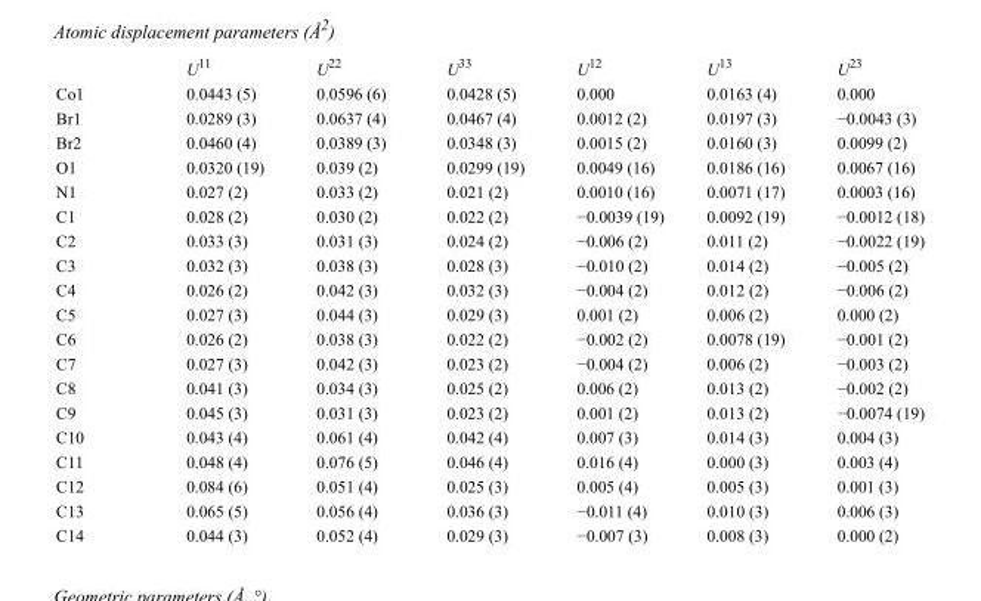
<table><thead><tr><td></td><td>U<sup>11</sup></td><td>U<sup>22</sup></td><td>U<sup>33</sup></td><td>U<sup>12</sup></td><td>U<sup>13</sup></td><td>U<sup>23</sup></td></tr></thead><tbody><tr><td>Co1</td><td>0.0443 (5)</td><td>0.0596 (6)</td><td>0.0428 (5)</td><td>0.000</td><td>0.0163 (4)</td><td>0.000</td></tr><tr><td>Br1</td><td>0.0289 (3)</td><td>0.0637 (4)</td><td>0.0467 (4)</td><td>0.0012 (2)</td><td>0.0197 (3)</td><td>−0.0043 (3)</td></tr><tr><td>Br2</td><td>0.0460 (4)</td><td>0.0389 (3)</td><td>0.0348 (3)</td><td>0.0015 (2)</td><td>0.0160 (3)</td><td>0.0099 (2)</td></tr><tr><td>O1</td><td>0.0320 (19)</td><td>0.039 (2)</td><td>0.0299 (19)</td><td>0.0049 (16)</td><td>0.0186 (16)</td><td>0.0067 (16)</td></tr><tr><td>N1</td><td>0.027 (2)</td><td>0.033 (2)</td><td>0.021 (2)</td><td>0.0010 (16)</td><td>0.0071 (17)</td><td>0.0003 (16)</td></tr><tr><td>C1</td><td>0.028 (2)</td><td>0.030 (2)</td><td>0.022 (2)</td><td>−0.0039 (19)</td><td>0.0092 (19)</td><td>−0.0012 (18)</td></tr><tr><td>C2</td><td>0.033 (3)</td><td>0.031 (3)</td><td>0.024 (2)</td><td>−0.006 (2)</td><td>0.011 (2)</td><td>−0.0022 (19)</td></tr><tr><td>C3</td><td>0.032 (3)</td><td>0.038 (3)</td><td>0.028 (3)</td><td>−0.010 (2)</td><td>0.014 (2)</td><td>−0.005 (2)</td></tr><tr><td>C4</td><td>0.026 (2)</td><td>0.042 (3)</td><td>0.032 (3)</td><td>−0.004 (2)</td><td>0.012 (2)</td><td>−0.006 (2)</td></tr><tr><td>C5</td><td>0.027 (3)</td><td>0.044 (3)</td><td>0.029 (3)</td><td>0.001 (2)</td><td>0.006 (2)</td><td>0.000 (2)</td></tr><tr><td>C6</td><td>0.026 (2)</td><td>0.038 (3)</td><td>0.022 (2)</td><td>−0.002 (2)</td><td>0.0078 (19)</td><td>−0.001 (2)</td></tr><tr><td>C7</td><td>0.027 (3)</td><td>0.042 (3)</td><td>0.023 (2)</td><td>−0.004 (2)</td><td>0.006 (2)</td><td>−0.003 (2)</td></tr><tr><td>C8</td><td>0.041 (3)</td><td>0.034 (3)</td><td>0.025 (2)</td><td>0.006 (2)</td><td>0.013 (2)</td><td>−0.002 (2)</td></tr><tr><td>C9</td><td>0.045 (3)</td><td>0.031 (3)</td><td>0.023 (2)</td><td>0.001 (2)</td><td>0.013 (2)</td><td>−0.0074 (19)</td></tr><tr><td>C10</td><td>0.043 (4)</td><td>0.061 (4)</td><td>0.042 (4)</td><td>0.007 (3)</td><td>0.014 (3)</td><td>0.004 (3)</td></tr><tr><td>C11</td><td>0.048 (4)</td><td>0.076 (5)</td><td>0.046 (4)</td><td>0.016 (4)</td><td>0.000 (3)</td><td>0.003 (4)</td></tr><tr><td>C12</td><td>0.084 (6)</td><td>0.051 (4)</td><td>0.025 (3)</td><td>0.005 (4)</td><td>0.005 (3)</td><td>0.001 (3)</td></tr><tr><td>C13</td><td>0.065 (5)</td><td>0.056 (4)</td><td>0.036 (3)</td><td>−0.011 (4)</td><td>0.010 (3)</td><td>0.006 (3)</td></tr><tr><td>C14</td><td>0.044 (3)</td><td>0.052 (4)</td><td>0.029 (3)</td><td>−0.007 (3)</td><td>0.008 (3)</td><td>0.000 (2)</td></tr></tbody></table>